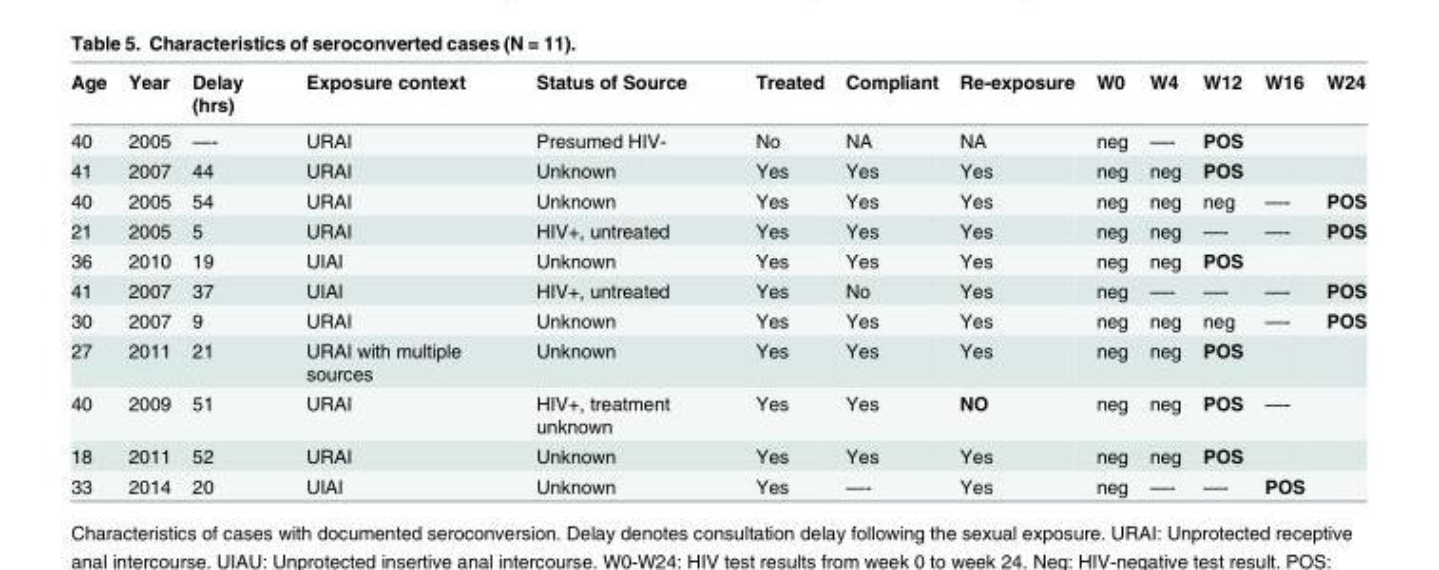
<table><thead><tr><td>Age</td><td>Year</td><td>Delay (hrs)</td><td>Exposure context</td><td>Status of Source</td><td>Treated</td><td>Compliant</td><td>Re-exposure</td><td>W0</td><td>W4</td><td>W12</td><td>W16</td><td>W24</td></tr></thead><tbody><tr><td>40</td><td>2005</td><td>—-</td><td>URAI</td><td>Presumed HIV-</td><td>No</td><td>NA</td><td>NA</td><td>neg</td><td>—-</td><td>POS</td><td></td><td></td></tr><tr><td>41</td><td>2007</td><td>44</td><td>URAI</td><td>Unknown</td><td>Yes</td><td>Yes</td><td>Yes</td><td>neg</td><td>neg</td><td>POS</td><td></td><td></td></tr><tr><td>40</td><td>2005</td><td>54</td><td>URAI</td><td>Unknown</td><td>Yes</td><td>Yes</td><td>Yes</td><td>neg</td><td>neg</td><td>neg</td><td>—-</td><td>POS</td></tr><tr><td>21</td><td>2005</td><td>5</td><td>URAI</td><td>HIV+, untreated</td><td>Yes</td><td>Yes</td><td>Yes</td><td>neg</td><td>neg</td><td>—-</td><td>—-</td><td>POS</td></tr><tr><td>36</td><td>2010</td><td>19</td><td>UIAI</td><td>Unknown</td><td>Yes</td><td>Yes</td><td>Yes</td><td>neg</td><td>neg</td><td>POS</td><td></td><td></td></tr><tr><td>41</td><td>2007</td><td>37</td><td>UIAI</td><td>HIV+, untreated</td><td>Yes</td><td>No</td><td>Yes</td><td>neg</td><td>—-</td><td>—-</td><td>—-</td><td>POS</td></tr><tr><td>30</td><td>2007</td><td>9</td><td>URAI</td><td>Unknown</td><td>Yes</td><td>Yes</td><td>Yes</td><td>neg</td><td>neg</td><td>neg</td><td>—-</td><td>POS</td></tr><tr><td>27</td><td>2011</td><td>21</td><td>URAI with multiple sources</td><td>Unknown</td><td>Yes</td><td>Yes</td><td>Yes</td><td>neg</td><td>neg</td><td>POS</td><td></td><td></td></tr><tr><td>40</td><td>2009</td><td>51</td><td>URAI</td><td>HIV+, treatment unknown</td><td>Yes</td><td>Yes</td><td>NO</td><td>neg</td><td>neg</td><td>POS</td><td>—-</td><td></td></tr><tr><td>18</td><td>2011</td><td>52</td><td>URAI</td><td>Unknown</td><td>Yes</td><td>Yes</td><td>Yes</td><td>neg</td><td>neg</td><td>POS</td><td></td><td></td></tr><tr><td>33</td><td>2014</td><td>20</td><td>UIAI</td><td>Unknown</td><td>Yes</td><td>—-</td><td>Yes</td><td>neg</td><td>—-</td><td>—-</td><td>POS</td><td></td></tr></tbody></table>